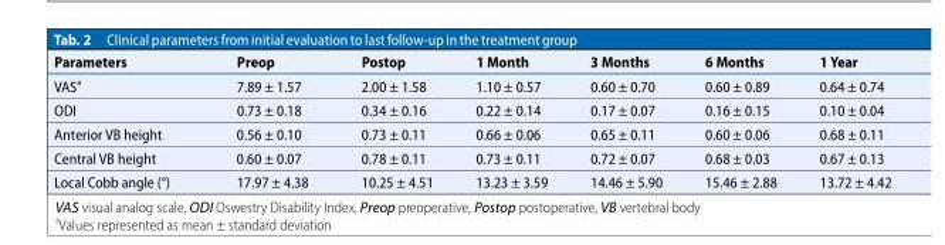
<table><thead><tr><td>Parameters</td><td>Preop</td><td>Postop</td><td>1 Month</td><td>3 Months</td><td>6 Months</td><td>1 Year</td></tr></thead><tbody><tr><td>VAS<sup>a</sup></td><td>7.89 ± 1.57</td><td>2.00 ± 1.58</td><td>1.10 ± 0.57</td><td>0.60 ± 0.70</td><td>0.60 ± 0.89</td><td>0.64 ± 0.74</td></tr><tr><td>ODI</td><td>0.73 ± 0.18</td><td>0.34 ± 0.16</td><td>0.22 ± 0.14</td><td>0.17 ± 0.07</td><td>0.16 ± 0.15</td><td>0.10 ± 0.04</td></tr><tr><td>Anterior VB height</td><td>0.56 ± 0.10</td><td>0.73 ± 0.11</td><td>0.66 ± 0.06</td><td>0.65 ± 0.11</td><td>0.60 ± 0.06</td><td>0.68 ± 0.11</td></tr><tr><td>Central VB height</td><td>0.60 ± 0.07</td><td>0.78 ± 0.11</td><td>0.73 ± 0.11</td><td>0.72 ± 0.07</td><td>0.68 ± 0.03</td><td>0.67 ± 0.13</td></tr><tr><td>Local Cobb angle (°)</td><td>17.97 ± 4.38</td><td>10.25 ± 4.51</td><td>13.23 ± 3.59</td><td>14.46 ± 5.90</td><td>15.46 ± 2.88</td><td>13.72 ± 4.42</td></tr></tbody></table>